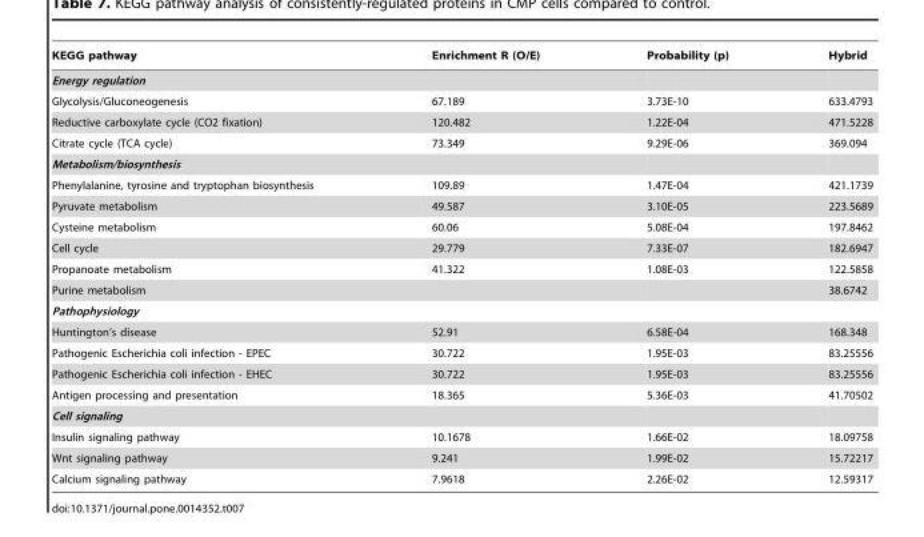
<table><thead><tr><td>KEGG pathway</td><td>Enrichment R (O/E)</td><td>Probability (p)</td><td>Hybrid</td></tr></thead><tbody><tr><td colspan="4">Energy regulation</td></tr><tr><td>Glycolysis/Gluconeogenesis</td><td>67.189</td><td>3.73E-10</td><td>633.4793</td></tr><tr><td>Reductive carboxylate cycle (CO2 fixation)</td><td>120.482</td><td>1.22E-04</td><td>471.5228</td></tr><tr><td>Citrate cycle (TCA cycle)</td><td>73.349</td><td>9.29E-06</td><td>369.094</td></tr><tr><td colspan="4">Metabolism/biosynthesis</td></tr><tr><td>Phenylalanine, tyrosine and tryptophan biosynthesis</td><td>109.89</td><td>1.47E-04</td><td>421.1739</td></tr><tr><td>Pyruvate metabolism</td><td>49.587</td><td>3.10E-05</td><td>223.5689</td></tr><tr><td>Cysteine metabolism</td><td>60.06</td><td>5.08E-04</td><td>197.8462</td></tr><tr><td>Cell cycle</td><td>29.779</td><td>7.33E-07</td><td>182.6947</td></tr><tr><td>Propanoate metabolism</td><td>41.322</td><td>1.08E-03</td><td>122.5858</td></tr><tr><td>Purine metabolism</td><td></td><td></td><td>38.6742</td></tr><tr><td colspan="4">Pathophysiology</td></tr><tr><td>Huntington’s disease</td><td>52.91</td><td>6.58E-04</td><td>168.348</td></tr><tr><td>Pathogenic Escherichia coli infection - EPEC</td><td>30.722</td><td>1.95E-03</td><td>83.25556</td></tr><tr><td>Pathogenic Escherichia coli infection - EHEC</td><td>30.722</td><td>1.95E-03</td><td>83.25556</td></tr><tr><td>Antigen processing and presentation</td><td>18.365</td><td>5.36E-03</td><td>41.70502</td></tr><tr><td colspan="4">Cell signaling</td></tr><tr><td>Insulin signaling pathway</td><td>10.1678</td><td>1.66E-02</td><td>18.09758</td></tr><tr><td>Wnt signaling pathway</td><td>9.241</td><td>1.99E-02</td><td>15.72217</td></tr><tr><td>Calcium signaling pathway</td><td>7.9618</td><td>2.26E-02</td><td>12.59317</td></tr></tbody></table>